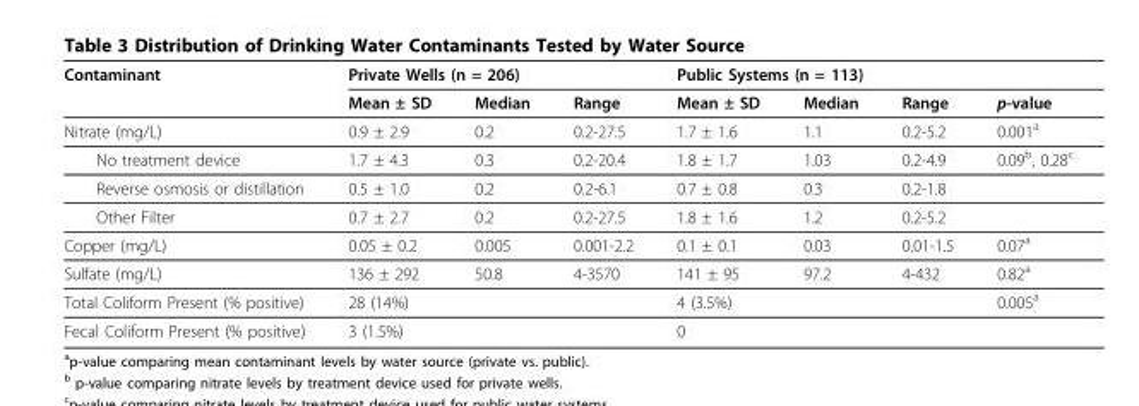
<table><thead><tr><td rowspan="2">Contaminant</td><td colspan="3">Private Wells (n = 206)</td><td colspan="3">Public Systems (n = 113)</td><td rowspan="2">p-value</td></tr><tr><td>Mean ± SD</td><td>Median</td><td>Range</td><td>Mean ± SD</td><td>Median</td><td>Range</td></tr></thead><tbody><tr><td>Nitrate (mg/L)</td><td>0.9 ± 2.9</td><td>0.2</td><td>0.2-27.5</td><td>1.7 ± 1.6</td><td>1.1</td><td>0.2-5.2</td><td>0.001<sup>a</sup></td></tr><tr><td>No treatment device</td><td>1.7 ± 4.3</td><td>0.3</td><td>0.2-20.4</td><td>1.8 ± 1.7</td><td>1.03</td><td>0.2-4.9</td><td>0.09<sup>b</sup>, 0.28<sup>c</sup></td></tr><tr><td>Reverse osmosis or distillation</td><td>0.5 ± 1.0</td><td>0.2</td><td>0.2-6.1</td><td>0.7 ± 0.8</td><td>0.3</td><td>0.2-1.8</td><td></td></tr><tr><td>Other Filter</td><td>0.7 ± 2.7</td><td>0.2</td><td>0.2-27.5</td><td>1.8 ± 1.6</td><td>1.2</td><td>0.2-5.2</td><td></td></tr><tr><td>Copper (mg/L)</td><td>0.05 ± 0.2</td><td>0.005</td><td>0.001-2.2</td><td>0.1 ± 0.1</td><td>0.03</td><td>0.01-1.5</td><td>0.07<sup>a</sup></td></tr><tr><td>Sulfate (mg/L)</td><td>136 ± 292</td><td>50.8</td><td>4-3570</td><td>141 ± 95</td><td>97.2</td><td>4-432</td><td>0.82<sup>a</sup></td></tr><tr><td>Total Coliform Present (% positive)</td><td colspan="2">28 (14%)</td><td></td><td colspan="2">4 (3.5%)</td><td></td><td>0.005<sup>a</sup></td></tr><tr><td>Fecal Coliform Present (% positive)</td><td colspan="2">3 (1.5%)</td><td></td><td colspan="2">0</td><td></td><td></td></tr></tbody></table>